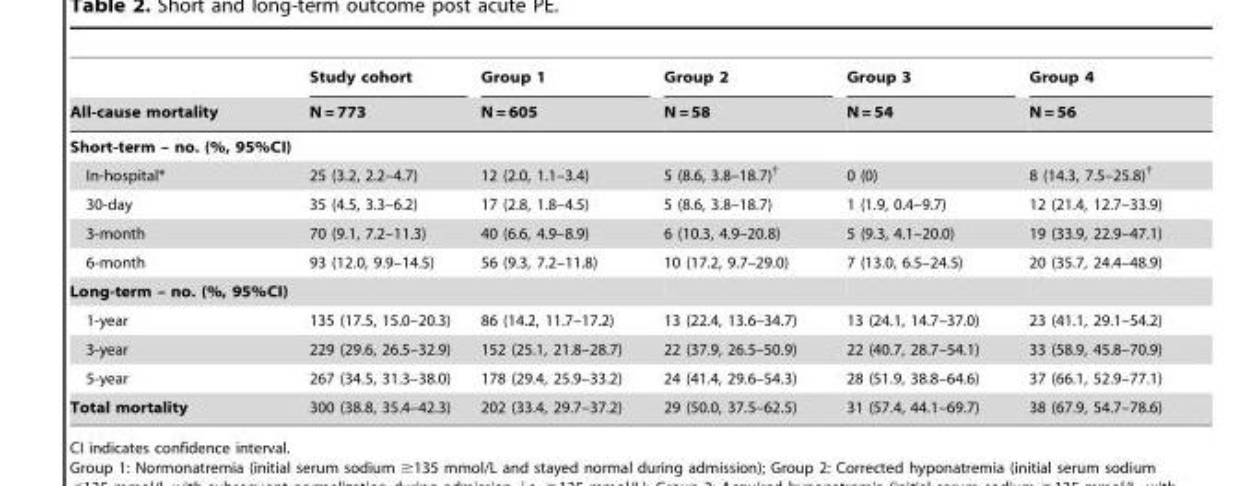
<table><thead><tr><td rowspan="2">All-cause mortality</td><td rowspan="2">Study cohort N = 773</td><td rowspan="2">Group 1 N = 605</td><td rowspan="2">Group 2 N = 58</td><td rowspan="2">Group 3 N = 54</td><td rowspan="2">Group 4 N = 56</td></tr><tr></tr></thead><tbody><tr><td colspan="6">Short-term – no. (%, 95%CI)</td></tr><tr><td>In-hospital*</td><td>25 (3.2, 2.2–4.7)</td><td>12 (2.0, 1.1–3.4)</td><td>5 (8.6, 3.8–18.7)†</td><td>0 (0)</td><td>8 (14.3, 7.5–25.8)†</td></tr><tr><td>30-day</td><td>35 (4.5, 3.3–6.2)</td><td>17 (2.8, 1.8–4.5)</td><td>5 (8.6, 3.8–18.7)</td><td>1 (1.9, 0.4–9.7)</td><td>12 (21.4, 12.7–33.9)</td></tr><tr><td>3-month</td><td>70 (9.1, 7.2–11.3)</td><td>40 (6.6, 4.9–8.9)</td><td>6 (10.3, 4.9–20.8)</td><td>5 (9.3, 4.1–20.0)</td><td>19 (33.9, 22.9–47.1)</td></tr><tr><td>6-month</td><td>93 (12.0, 9.9–14.5)</td><td>56 (9.3, 7.2–11.8)</td><td>10 (17.2, 9.7–29.0)</td><td>7 (13.0, 6.5–24.5)</td><td>20 (35.7, 24.4–48.9)</td></tr><tr><td colspan="6">Long-term – no. (%, 95%CI)</td></tr><tr><td>1-year</td><td>135 (17.5, 15.0–20.3)</td><td>86 (14.2, 11.7–17.2)</td><td>13 (22.4, 13.6–34.7)</td><td>13 (24.1, 14.7–37.0)</td><td>23 (41.1, 29.1–54.2)</td></tr><tr><td>3-year</td><td>229 (29.6, 26.5–32.9)</td><td>152 (25.1, 21.8–28.7)</td><td>22 (37.9, 26.5–50.9)</td><td>22 (40.7, 28.7–54.1)</td><td>33 (58.9, 45.8–70.9)</td></tr><tr><td>5-year</td><td>267 (34.5, 31.3–38.0)</td><td>178 (29.4, 25.9–33.2)</td><td>24 (41.4, 29.6–54.3)</td><td>28 (51.9, 38.8–64.6)</td><td>37 (66.1, 52.9–77.1)</td></tr><tr><td>Total mortality</td><td>300 (38.8, 35.4–42.3)</td><td>202 (33.4, 29.7–37.2)</td><td>29 (50.0, 37.5–62.5)</td><td>31 (57.4, 44.1–69.7)</td><td>38 (67.9, 54.7–78.6)</td></tr></tbody></table>